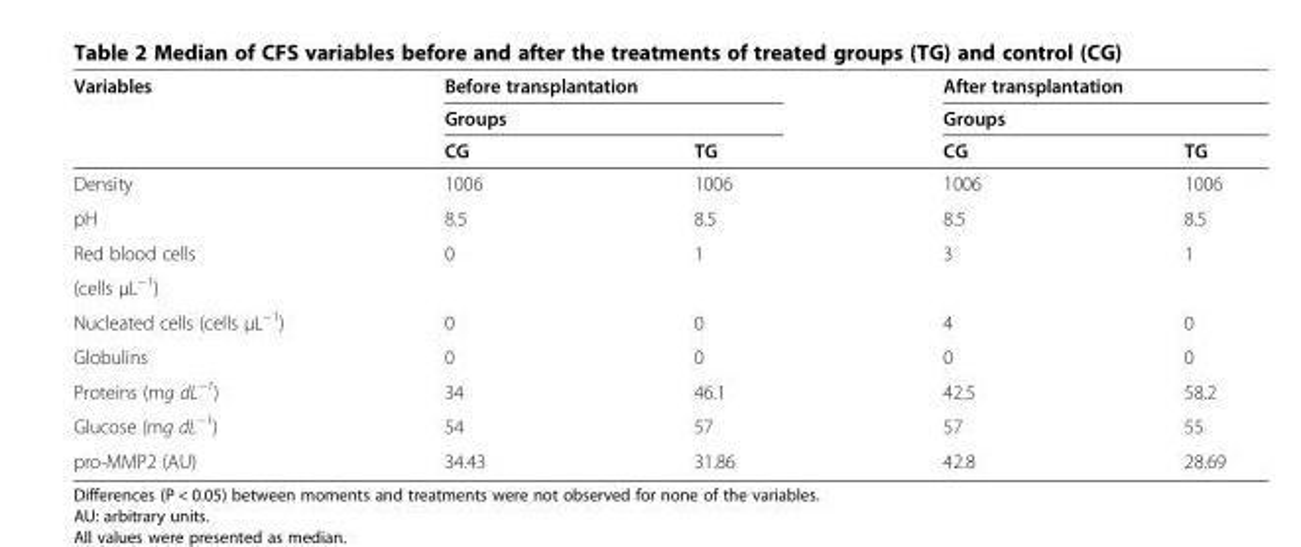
<table><thead><tr><td rowspan="3">Variables</td><td rowspan="2" colspan="2">Before transplantation Groups</td><td rowspan="2" colspan="2">After transplantation Groups</td></tr><tr></tr><tr><td>CG</td><td>TG</td><td>CG</td><td>TG</td></tr></thead><tbody><tr><td>Density</td><td>1006</td><td>1006</td><td>1006</td><td>1006</td></tr><tr><td>pH</td><td>8.5</td><td>8.5</td><td>8.5</td><td>8.5</td></tr><tr><td>Red blood cells</td><td>0</td><td>1</td><td>3</td><td>1</td></tr><tr><td colspan="5">(cells μL<sup>−1</sup>)</td></tr><tr><td>Nucleated cells (cells μL<sup>−1</sup>)</td><td>0</td><td>0</td><td>4</td><td>0</td></tr><tr><td>Globulins</td><td>0</td><td>0</td><td>0</td><td>0</td></tr><tr><td>Proteins (mg dL<sup>−1</sup>)</td><td>34</td><td>46.1</td><td>42.5</td><td>58.2</td></tr><tr><td>Glucose (mg dL<sup>−1</sup>)</td><td>54</td><td>57</td><td>57</td><td>55</td></tr><tr><td>pro-MMP2 (AU)</td><td>34.43</td><td>31.86</td><td>42.8</td><td>28.69</td></tr></tbody></table>